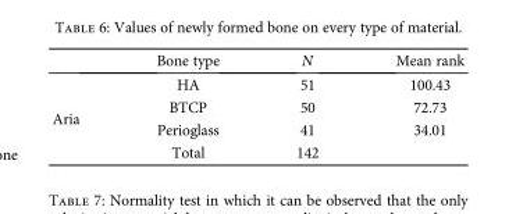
<table><thead><tr><td></td><td>Bone type</td><td>N</td><td>Mean rank</td></tr></thead><tbody><tr><td rowspan="4">Aria</td><td>HA</td><td>51</td><td>100.43</td></tr><tr><td>BTCP</td><td>50</td><td>72.73</td></tr><tr><td>Perioglass</td><td>41</td><td>34.01</td></tr><tr><td>Total</td><td>142</td><td></td></tr></tbody></table>